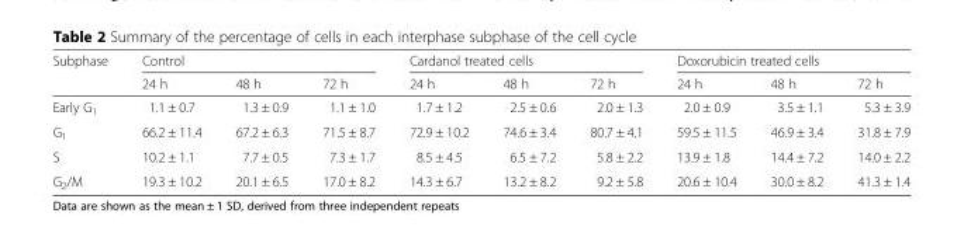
<table><thead><tr><td rowspan="2">Subphase</td><td colspan="3">Control</td><td colspan="3">Cardanol treated cells</td><td colspan="3">Doxorubicin treated cells</td></tr><tr><td>24 h</td><td>48 h</td><td>72 h</td><td>24 h</td><td>48 h</td><td>72 h</td><td>24 h</td><td>48 h</td><td>72 h</td></tr></thead><tbody><tr><td>Early G<sub>1</sub></td><td>1.1 ± 0.7</td><td>1.3 ± 0.9</td><td>1.1 ± 1.0</td><td>1.7 ± 1.2</td><td>2.5 ± 0.6</td><td>2.0 ± 1.3</td><td>2.0 ± 0.9</td><td>3.5 ± 1.1</td><td>5.3 ± 3.9</td></tr><tr><td>G<sub>1</sub></td><td>66.2 ± 11.4</td><td>67.2 ± 6.3</td><td>71.5 ± 8.7</td><td>72.9 ± 10.2</td><td>74.6 ± 3.4</td><td>80.7 ± 4.1</td><td>59.5 ± 11.5</td><td>46.9 ± 3.4</td><td>31.8 ± 7.9</td></tr><tr><td>S</td><td>10.2 ± 1.1</td><td>7.7 ± 0.5</td><td>7.3 ± 1.7</td><td>8.5 ± 4.5</td><td>6.5 ± 7.2</td><td>5.8 ± 2.2</td><td>13.9 ± 1.8</td><td>14.4 ± 7.2</td><td>14.0 ± 2.2</td></tr><tr><td>G<sub>2</sub>/M</td><td>19.3 ± 10.2</td><td>20.1 ± 6.5</td><td>17.0 ± 8.2</td><td>14.3 ± 6.7</td><td>13.2 ± 8.2</td><td>9.2 ± 5.8</td><td>20.6 ± 10.4</td><td>30.0 ± 8.2</td><td>41.3 ± 1.4</td></tr></tbody></table>